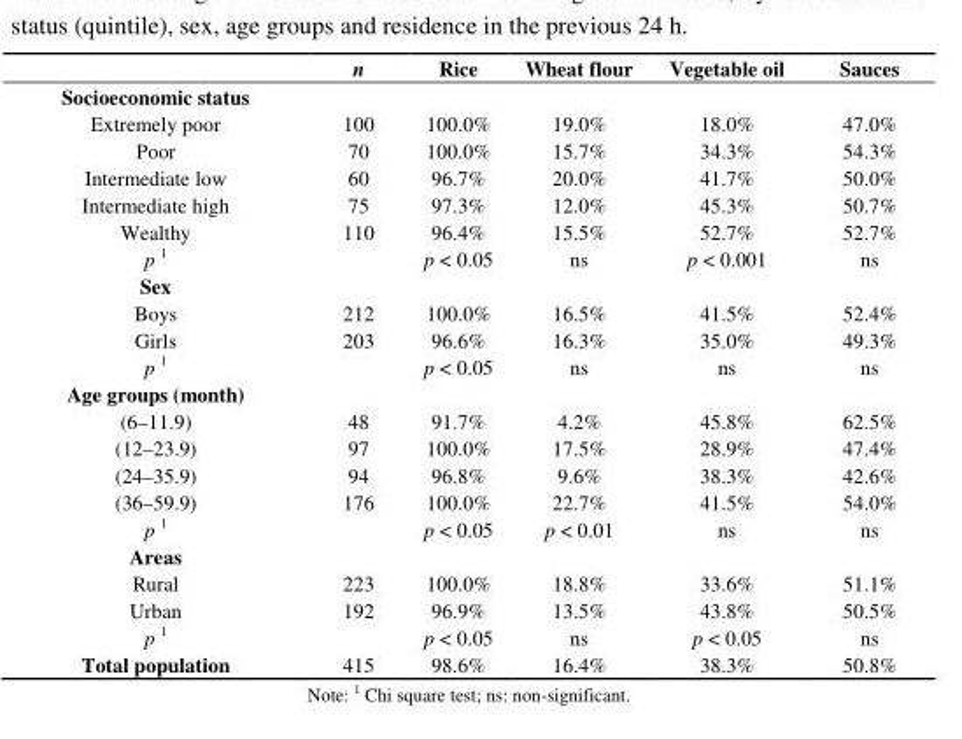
<table><thead><tr><td></td><td>n</td><td>Rice</td><td>Wheat flour</td><td>Vegetable oil</td><td>Sauces</td></tr></thead><tbody><tr><td colspan="6">Socioeconomic status</td></tr><tr><td>Extremely poor</td><td>100</td><td>100.0%</td><td>19.0%</td><td>18.0%</td><td>47.0%</td></tr><tr><td>Poor</td><td>70</td><td>100.0%</td><td>15.7%</td><td>34.3%</td><td>54.3%</td></tr><tr><td>Intermediate low</td><td>60</td><td>96.7%</td><td>20.0%</td><td>41.7%</td><td>50.0%</td></tr><tr><td>Intermediate high</td><td>75</td><td>97.3%</td><td>12.0%</td><td>45.3%</td><td>50.7%</td></tr><tr><td>Wealthy</td><td>110</td><td>96.4%</td><td>15.5%</td><td>52.7%</td><td>52.7%</td></tr><tr><td>p <sup>1</sup></td><td></td><td>p &lt; 0.05</td><td>ns</td><td>p &lt; 0.001</td><td>ns</td></tr><tr><td colspan="6">Sex</td></tr><tr><td>Boys</td><td>212</td><td>100.0%</td><td>16.5%</td><td>41.5%</td><td>52.4%</td></tr><tr><td>Girls</td><td>203</td><td>96.6%</td><td>16.3%</td><td>35.0%</td><td>49.3%</td></tr><tr><td>p <sup>1</sup></td><td></td><td>p &lt; 0.05</td><td>ns</td><td>ns</td><td>ns</td></tr><tr><td colspan="6">Age groups (month)</td></tr><tr><td>(6–11.9)</td><td>48</td><td>91.7%</td><td>4.2%</td><td>45.8%</td><td>62.5%</td></tr><tr><td>(12–23.9)</td><td>97</td><td>100.0%</td><td>17.5%</td><td>28.9%</td><td>47.4%</td></tr><tr><td>(24–35.9)</td><td>94</td><td>96.8%</td><td>9.6%</td><td>38.3%</td><td>42.6%</td></tr><tr><td>(36–59.9)</td><td>176</td><td>100.0%</td><td>22.7%</td><td>41.5%</td><td>54.0%</td></tr><tr><td>p <sup>1</sup></td><td></td><td>p &lt; 0.05</td><td>p &lt; 0.01</td><td>ns</td><td>ns</td></tr><tr><td colspan="6">Areas</td></tr><tr><td>Rural</td><td>223</td><td>100.0%</td><td>18.8%</td><td>33.6%</td><td>51.1%</td></tr><tr><td>Urban</td><td>192</td><td>96.9%</td><td>13.5%</td><td>43.8%</td><td>50.5%</td></tr><tr><td>p <sup>1</sup></td><td></td><td>p &lt; 0.05</td><td>ns</td><td>p &lt; 0.05</td><td>ns</td></tr><tr><td>Total population</td><td>415</td><td>98.6%</td><td>16.4%</td><td>38.3%</td><td>50.8%</td></tr></tbody></table>